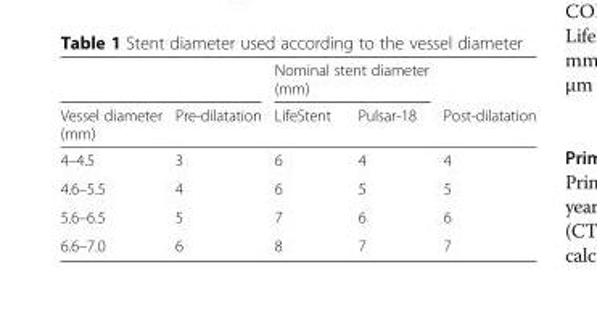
<table><thead><tr><td rowspan="2">Vessel diameter (mm)</td><td rowspan="2">Pre-dilatation</td><td colspan="2">Nominal stent diameter (mm)</td><td rowspan="2">Post-dilatation</td></tr><tr><td>LifeStent</td><td>Pulsar-18</td></tr></thead><tbody><tr><td>4–4.5</td><td>3</td><td>6</td><td>4</td><td>4</td></tr><tr><td>4.6–5.5</td><td>4</td><td>6</td><td>5</td><td>5</td></tr><tr><td>5.6–6.5</td><td>5</td><td>7</td><td>6</td><td>6</td></tr><tr><td>6.6–7.0</td><td>6</td><td>8</td><td>7</td><td>7</td></tr></tbody></table>